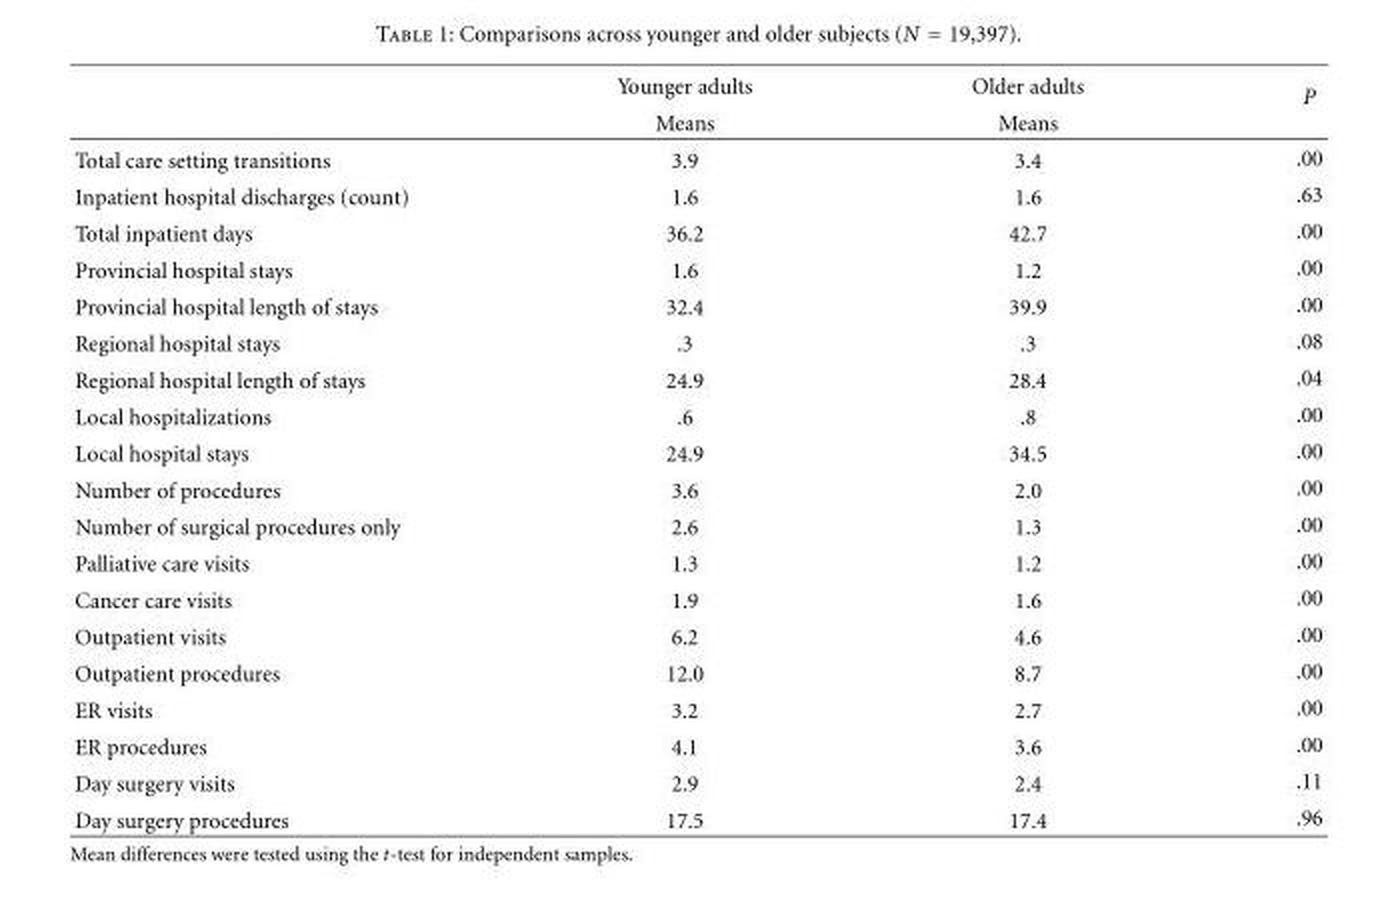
<table><thead><tr><td rowspan="2"></td><td rowspan="2">Younger adults Means</td><td rowspan="2">Older adults Means</td><td rowspan="2">P</td></tr><tr></tr></thead><tbody><tr><td>Total care setting transitions</td><td>3.9</td><td>3.4</td><td>.00</td></tr><tr><td>Inpatient hospital discharges (count)</td><td>1.6</td><td>1.6</td><td>.63</td></tr><tr><td>Total inpatient days</td><td>36.2</td><td>42.7</td><td>.00</td></tr><tr><td>Provincial hospital stays</td><td>1.6</td><td>1.2</td><td>.00</td></tr><tr><td>Provincial hospital length of stays</td><td>32.4</td><td>39.9</td><td>.00</td></tr><tr><td>Regional hospital stays</td><td>.3</td><td>.3</td><td>.08</td></tr><tr><td>Regional hospital length of stays</td><td>24.9</td><td>28.4</td><td>.04</td></tr><tr><td>Local hospitalizations</td><td>.6</td><td>.8</td><td>.00</td></tr><tr><td>Local hospital stays</td><td>24.9</td><td>34.5</td><td>.00</td></tr><tr><td>Number of procedures</td><td>3.6</td><td>2.0</td><td>.00</td></tr><tr><td>Number of surgical procedures only</td><td>2.6</td><td>1.3</td><td>.00</td></tr><tr><td>Palliative care visits</td><td>1.3</td><td>1.2</td><td>.00</td></tr><tr><td>Cancer care visits</td><td>1.9</td><td>1.6</td><td>.00</td></tr><tr><td>Outpatient visits</td><td>6.2</td><td>4.6</td><td>.00</td></tr><tr><td>Outpatient procedures</td><td>12.0</td><td>8.7</td><td>.00</td></tr><tr><td>ER visits</td><td>3.2</td><td>2.7</td><td>.00</td></tr><tr><td>ER procedures</td><td>4.1</td><td>3.6</td><td>.00</td></tr><tr><td>Day surgery visits</td><td>2.9</td><td>2.4</td><td>.11</td></tr><tr><td>Day surgery procedures</td><td>17.5</td><td>17.4</td><td>.96</td></tr></tbody></table>